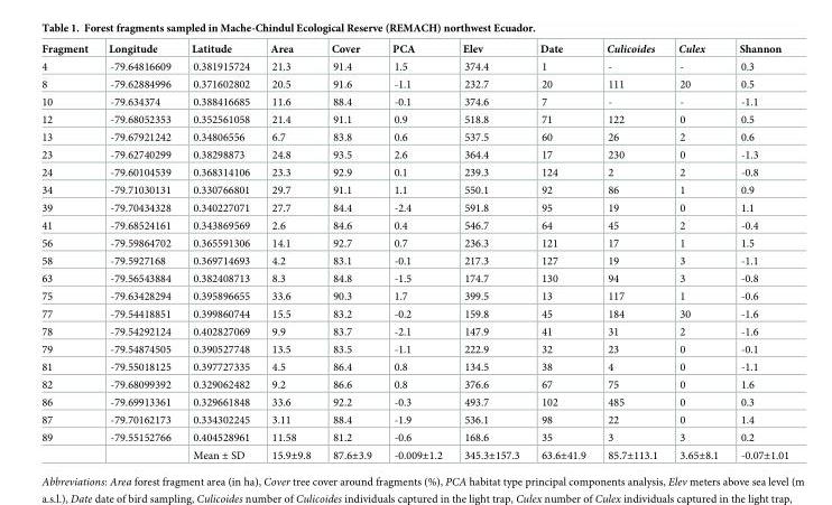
<table><thead><tr><td>Fragment</td><td>Longitude</td><td>Latitude</td><td>Area</td><td>Cover</td><td>PCA</td><td>Elev</td><td>Date</td><td>Culicoides</td><td>Culex</td><td>Shannon</td></tr></thead><tbody><tr><td>4</td><td>-79.64816609</td><td>0.381915724</td><td>21.3</td><td>91.4</td><td>1.5</td><td>374.4</td><td>1</td><td>-</td><td>-</td><td>0.3</td></tr><tr><td>8</td><td>-79.62884996</td><td>0.371602802</td><td>20.5</td><td>91.6</td><td>-1.1</td><td>232.7</td><td>20</td><td>111</td><td>20</td><td>0.5</td></tr><tr><td>10</td><td>-79.634374</td><td>0.388416685</td><td>11.6</td><td>88.4</td><td>-0.1</td><td>374.6</td><td>7</td><td>-</td><td>-</td><td>-1.1</td></tr><tr><td>12</td><td>-79.68052353</td><td>0.352561058</td><td>21.4</td><td>91.1</td><td>0.9</td><td>518.8</td><td>71</td><td>122</td><td>0</td><td>0.5</td></tr><tr><td>13</td><td>-79.67921242</td><td>0.34806556</td><td>6.7</td><td>83.8</td><td>0.6</td><td>537.5</td><td>60</td><td>26</td><td>2</td><td>0.6</td></tr><tr><td>23</td><td>-79.62740299</td><td>0.38298873</td><td>24.8</td><td>93.5</td><td>2.6</td><td>364.4</td><td>17</td><td>230</td><td>0</td><td>-1.3</td></tr><tr><td>24</td><td>-79.60104539</td><td>0.368314106</td><td>23.3</td><td>92.9</td><td>0.1</td><td>239.3</td><td>124</td><td>2</td><td>2</td><td>-0.8</td></tr><tr><td>34</td><td>-79.71030131</td><td>0.330766801</td><td>29.7</td><td>91.1</td><td>1.1</td><td>550.1</td><td>92</td><td>86</td><td>1</td><td>0.9</td></tr><tr><td>39</td><td>-79.70434328</td><td>0.340227071</td><td>27.7</td><td>84.4</td><td>-2.4</td><td>591.8</td><td>95</td><td>19</td><td>0</td><td>1.1</td></tr><tr><td>41</td><td>-79.68524161</td><td>0.343869569</td><td>2.6</td><td>84.6</td><td>0.4</td><td>546.7</td><td>64</td><td>45</td><td>2</td><td>-0.4</td></tr><tr><td>56</td><td>-79.59864702</td><td>0.365591306</td><td>14.1</td><td>92.7</td><td>0.7</td><td>236.3</td><td>121</td><td>17</td><td>1</td><td>1.5</td></tr><tr><td>58</td><td>-79.5927168</td><td>0.369714693</td><td>4.2</td><td>83.1</td><td>-0.1</td><td>217.3</td><td>127</td><td>19</td><td>3</td><td>-1.1</td></tr><tr><td>63</td><td>-79.56543884</td><td>0.382408713</td><td>8.3</td><td>84.8</td><td>-1.5</td><td>174.7</td><td>130</td><td>94</td><td>3</td><td>-0.8</td></tr><tr><td>75</td><td>-79.63428294</td><td>0.395896655</td><td>33.6</td><td>90.3</td><td>1.7</td><td>399.5</td><td>13</td><td>117</td><td>1</td><td>-0.6</td></tr><tr><td>77</td><td>-79.54418851</td><td>0.399860744</td><td>15.5</td><td>83.2</td><td>-0.2</td><td>159.8</td><td>45</td><td>184</td><td>30</td><td>-1.6</td></tr><tr><td>78</td><td>-79.54292124</td><td>0.402827069</td><td>9.9</td><td>83.7</td><td>-2.1</td><td>147.9</td><td>41</td><td>31</td><td>2</td><td>-1.6</td></tr><tr><td>79</td><td>-79.54874505</td><td>0.390527748</td><td>13.5</td><td>83.5</td><td>-1.1</td><td>222.9</td><td>32</td><td>23</td><td>0</td><td>-0.1</td></tr><tr><td>81</td><td>-79.55018125</td><td>0.397727335</td><td>4.5</td><td>86.4</td><td>0.8</td><td>134.5</td><td>38</td><td>4</td><td>0</td><td>-1.1</td></tr><tr><td>82</td><td>-79.68099392</td><td>0.329062482</td><td>9.2</td><td>86.6</td><td>0.8</td><td>376.6</td><td>67</td><td>75</td><td>0</td><td>1.6</td></tr><tr><td>86</td><td>-79.69913361</td><td>0.329661848</td><td>33.6</td><td>92.2</td><td>-0.3</td><td>493.7</td><td>102</td><td>485</td><td>0</td><td>0.3</td></tr><tr><td>87</td><td>-79.70162173</td><td>0.334302245</td><td>3.11</td><td>88.4</td><td>-1.9</td><td>536.1</td><td>98</td><td>22</td><td>0</td><td>1.4</td></tr><tr><td rowspan="2">89</td><td>-79.55152766</td><td>0.404528961</td><td>11.58</td><td>81.2</td><td>-0.6</td><td>168.6</td><td>35</td><td>3</td><td>3</td><td>0.2</td></tr><tr><td></td><td>Mean ± SD</td><td>15.9±9.8</td><td>87.6±3.9</td><td>-0.009±1.2</td><td>345.3±157.3</td><td>63.6±41.9</td><td>85.7±113.1</td><td>3.65±8.1</td><td>-0.07±1.01</td></tr></tbody></table>